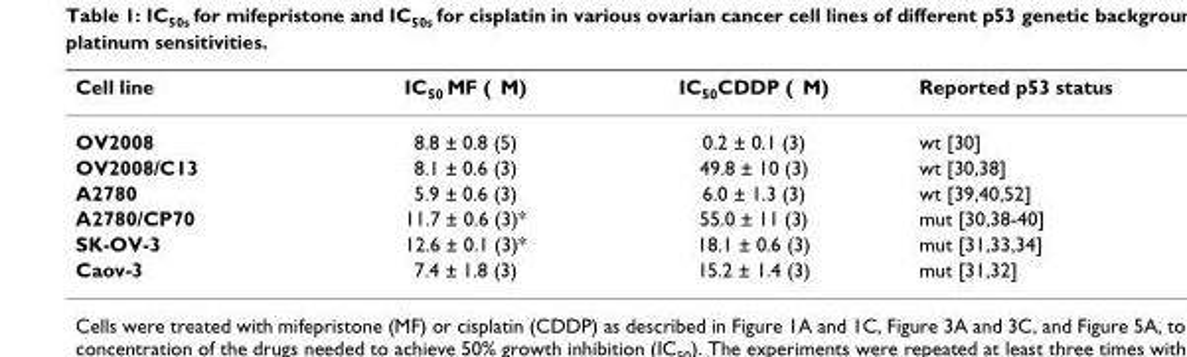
<table><thead><tr><td>Cell line</td><td>IC50 MF ( M)</td><td>IC50CDDP ( M)</td><td>Reported p53 status</td></tr></thead><tbody><tr><td>OV2008</td><td>8.8 ± 0.8 (5)</td><td>0.2 ± 0.1 (3)</td><td>wt [30]</td></tr><tr><td>OV2008/C13</td><td>8.1 ± 0.6 (3)</td><td>49.8 ± 10 (3)</td><td>wt [30,38]</td></tr><tr><td>A2780</td><td>5.9 ± 0.6 (3)</td><td>6.0 ± 1.3 (3)</td><td>wt [39,40,52]</td></tr><tr><td>A2780/CP70</td><td>11.7 ± 0.6 (3)*</td><td>55.0 ± 11 (3)</td><td>mut [30,38-40]</td></tr><tr><td>SK-OV-3</td><td>12.6 ± 0.1 (3)*</td><td>18.1 ± 0.6 (3)</td><td>mut [31,33,34]</td></tr><tr><td>Caov-3</td><td>7.4 ± 1.8 (3)</td><td>15.2 ± 1.4 (3)</td><td>mut [31,32]</td></tr></tbody></table>